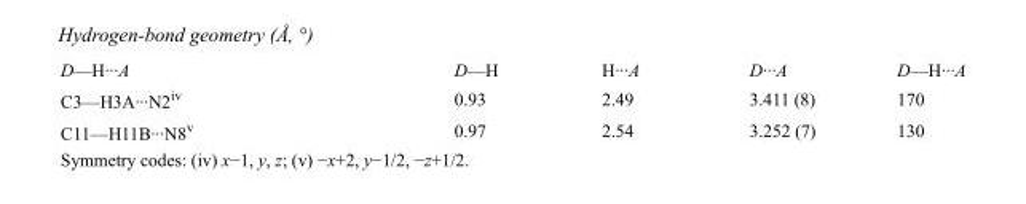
<table><tbody><tr><td>D—H···A</td><td>D—H</td><td>H···A</td><td>D···A</td><td>D—H···A</td></tr><tr><td>C3—H3A···N2<sup>iv</sup></td><td>0.93</td><td>2.49</td><td>3.411 (8)</td><td>170</td></tr><tr><td>C11—H11B···N8<sup>v</sup></td><td>0.97</td><td>2.54</td><td>3.252 (7)</td><td>130</td></tr></tbody></table>